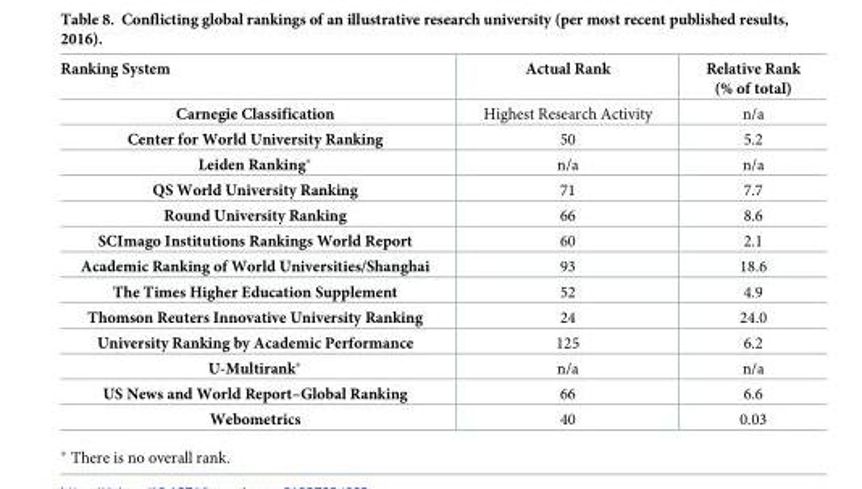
<table><thead><tr><td>Ranking System</td><td>Actual Rank</td><td>Relative Rank (% of total)</td></tr></thead><tbody><tr><td>Carnegie Classification</td><td>Highest Research Activity</td><td>n/a</td></tr><tr><td>Center for World University Ranking</td><td>50</td><td>5.2</td></tr><tr><td>Leiden Ranking*</td><td>n/a</td><td>n/a</td></tr><tr><td>QS World University Ranking</td><td>71</td><td>7.7</td></tr><tr><td>Round University Ranking</td><td>66</td><td>8.6</td></tr><tr><td>SCImago Institutions Rankings World Report</td><td>60</td><td>2.1</td></tr><tr><td>Academic Ranking of World Universities/Shanghai</td><td>93</td><td>18.6</td></tr><tr><td>The Times Higher Education Supplement</td><td>52</td><td>4.9</td></tr><tr><td>Thomson Reuters Innovative University Ranking</td><td>24</td><td>24.0</td></tr><tr><td>University Ranking by Academic Performance</td><td>125</td><td>6.2</td></tr><tr><td>U-Multirank*</td><td>n/a</td><td>n/a</td></tr><tr><td>US News and World Report–Global Ranking</td><td>66</td><td>6.6</td></tr><tr><td>Webometrics</td><td>40</td><td>0.03</td></tr></tbody></table>